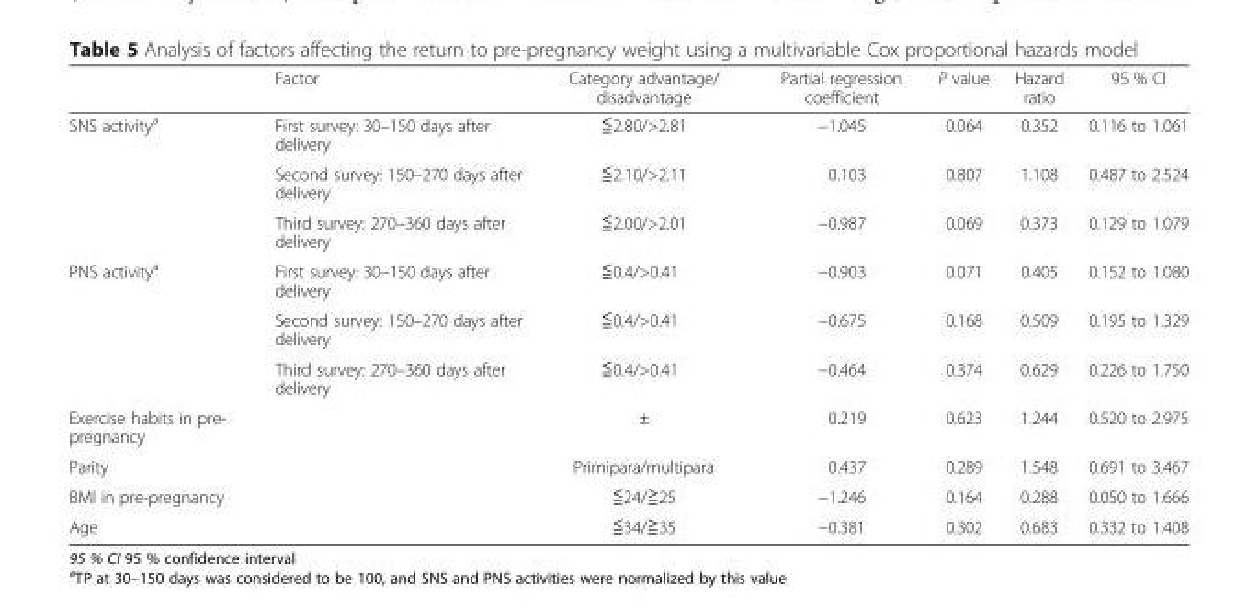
<table><thead><tr><td></td><td>Factor</td><td>Category advantage/ disadvantage</td><td>Partial regression coefficient</td><td>P value</td><td>Hazard ratio</td><td>95 % CI</td></tr></thead><tbody><tr><td rowspan="3">SNS activity<sup>a</sup></td><td>First survey: 30–150 days after delivery</td><td>≦2.80/&gt;2.81</td><td>−1.045</td><td>0.064</td><td>0.352</td><td>0.116 to 1.061</td></tr><tr><td>Second survey: 150–270 days after delivery</td><td>≦2.10/&gt;2.11</td><td>0.103</td><td>0.807</td><td>1.108</td><td>0.487 to 2.524</td></tr><tr><td>Third survey: 270–360 days after delivery</td><td>≦2.00/&gt;2.01</td><td>−0.987</td><td>0.069</td><td>0.373</td><td>0.129 to 1.079</td></tr><tr><td rowspan="3">PNS activity<sup>a</sup></td><td>First survey: 30–150 days after delivery</td><td>≦0.4/&gt;0.41</td><td>−0.903</td><td>0.071</td><td>0.405</td><td>0.152 to 1.080</td></tr><tr><td>Second survey: 150–270 days after delivery</td><td>≦0.4/&gt;0.41</td><td>−0.675</td><td>0.168</td><td>0.509</td><td>0.195 to 1.329</td></tr><tr><td>Third survey: 270–360 days after delivery</td><td>≦0.4/&gt;0.41</td><td>−0.464</td><td>0.374</td><td>0.629</td><td>0.226 to 1.750</td></tr><tr><td>Exercise habits in pre- pregnancy</td><td></td><td>±</td><td>0.219</td><td>0.623</td><td>1.244</td><td>0.520 to 2.975</td></tr><tr><td>Parity</td><td></td><td>Primipara/multipara</td><td>0.437</td><td>0.289</td><td>1.548</td><td>0.691 to 3.467</td></tr><tr><td>BMI in pre-pregnancy</td><td></td><td>≦24/≧25</td><td>−1.246</td><td>0.164</td><td>0.288</td><td>0.050 to 1.666</td></tr><tr><td>Age</td><td></td><td>≦34/≧35</td><td>−0.381</td><td>0.302</td><td>0.683</td><td>0.332 to 1.408</td></tr></tbody></table>